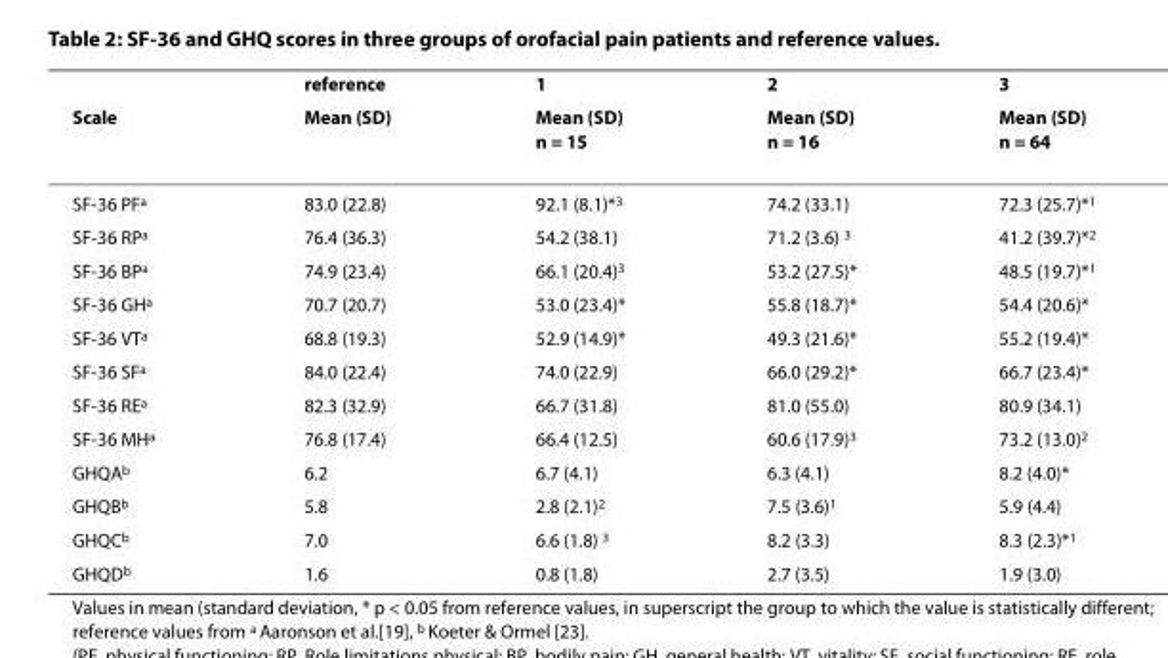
<table><thead><tr><td rowspan="2">Scale</td><td rowspan="2">reference Mean (SD)</td><td rowspan="2">1 Mean (SD) n = 15</td><td rowspan="2">2 Mean (SD) n = 16</td><td rowspan="2">3 Mean (SD) n = 64</td></tr><tr></tr></thead><tbody><tr><td>SF-36 PF<sup>a</sup></td><td>83.0 (22.8)</td><td>92.1 (8.1)*<sup>3</sup></td><td>74.2 (33.1)</td><td>72.3 (25.7)*<sup>1</sup></td></tr><tr><td>SF-36 RP<sup>a</sup></td><td>76.4 (36.3)</td><td>54.2 (38.1)</td><td>71.2 (3.6) <sup>3</sup></td><td>41.2 (39.7)*<sup>2</sup></td></tr><tr><td>SF-36 BP<sup>a</sup></td><td>74.9 (23.4)</td><td>66.1 (20.4)<sup>3</sup></td><td>53.2 (27.5)*</td><td>48.5 (19.7)*<sup>1</sup></td></tr><tr><td>SF-36 GH<sup>a</sup></td><td>70.7 (20.7)</td><td>53.0 (23.4)*</td><td>55.8 (18.7)*</td><td>54.4 (20.6)*</td></tr><tr><td>SF-36 VT<sup>a</sup></td><td>68.8 (19.3)</td><td>52.9 (14.9)*</td><td>49.3 (21.6)*</td><td>55.2 (19.4)*</td></tr><tr><td>SF-36 SF<sup>a</sup></td><td>84.0 (22.4)</td><td>74.0 (22.9)</td><td>66.0 (29.2)*</td><td>66.7 (23.4)*</td></tr><tr><td>SF-36 RE<sup>a</sup></td><td>82.3 (32.9)</td><td>66.7 (31.8)</td><td>81.0 (55.0)</td><td>80.9 (34.1)</td></tr><tr><td>SF-36 MH<sup>a</sup></td><td>76.8 (17.4)</td><td>66.4 (12.5)</td><td>60.6 (17.9)<sup>3</sup></td><td>73.2 (13.0)<sup>2</sup></td></tr><tr><td>GHQA<sup>b</sup></td><td>6.2</td><td>6.7 (4.1)</td><td>6.3 (4.1)</td><td>8.2 (4.0)*</td></tr><tr><td>GHQB<sup>b</sup></td><td>5.8</td><td>2.8 (2.1)<sup>2</sup></td><td>7.5 (3.6)<sup>1</sup></td><td>5.9 (4.4)</td></tr><tr><td>GHQC<sup>b</sup></td><td>7.0</td><td>6.6 (1.8) <sup>3</sup></td><td>8.2 (3.3)</td><td>8.3 (2.3)*<sup>1</sup></td></tr><tr><td>GHQD<sup>b</sup></td><td>1.6</td><td>0.8 (1.8)</td><td>2.7 (3.5)</td><td>1.9 (3.0)</td></tr></tbody></table>